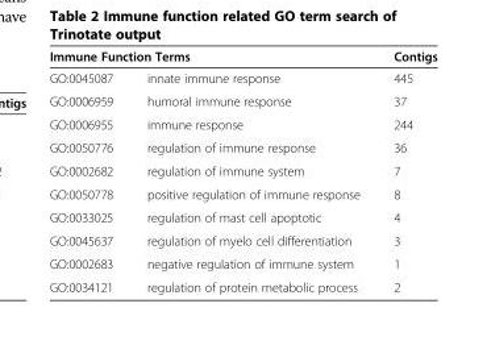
<table><thead><tr><td colspan="2">Immune Function Terms</td><td rowspan="2">Contigs 445</td></tr><tr><td>GO:0045087</td><td>innate immune response</td></tr></thead><tbody><tr><td>GO:0006959</td><td>humoral immune response</td><td>37</td></tr><tr><td>GO:0006955</td><td>immune response</td><td>244</td></tr><tr><td>GO:0050776</td><td>regulation of immune response</td><td>36</td></tr><tr><td>GO:0002682</td><td>regulation of immune system</td><td>7</td></tr><tr><td>GO:0050778</td><td>positive regulation of immune response</td><td>8</td></tr><tr><td>GO:0033025</td><td>regulation of mast cell apoptotic</td><td>4</td></tr><tr><td>GO:0045637</td><td>regulation of myelo cell differentiation</td><td>3</td></tr><tr><td>GO:0002683</td><td>negative regulation of immune system</td><td>1</td></tr><tr><td>GO:0034121</td><td>regulation of protein metabolic process</td><td>2</td></tr></tbody></table>